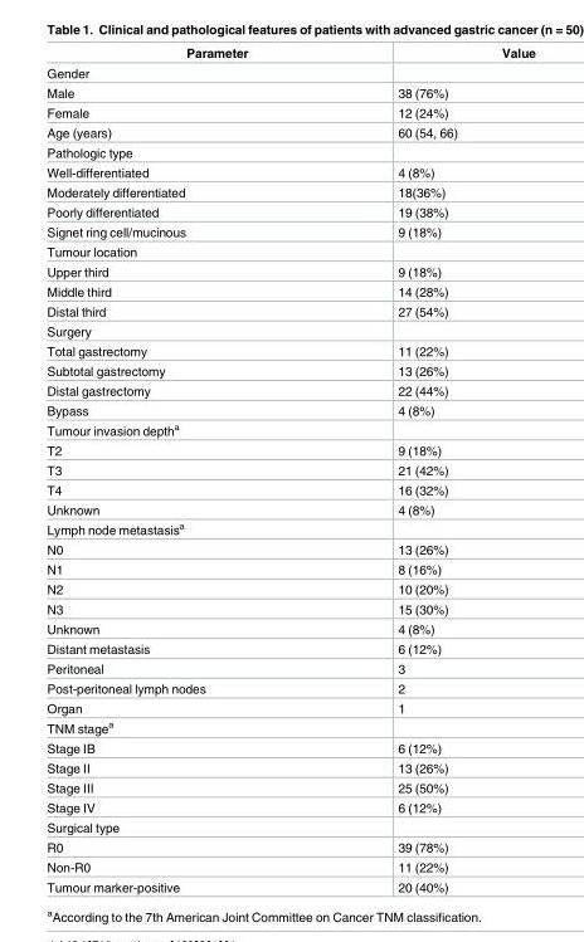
<table><thead><tr><td>Parameter</td><td>Value</td></tr></thead><tbody><tr><td colspan="2">Gender</td></tr><tr><td>Male</td><td>38 (76%)</td></tr><tr><td>Female</td><td>12 (24%)</td></tr><tr><td>Age (years)</td><td>60 (54, 66)</td></tr><tr><td colspan="2">Pathologic type</td></tr><tr><td>Well-differentiated</td><td>4 (8%)</td></tr><tr><td>Moderately differentiated</td><td>18(36%)</td></tr><tr><td>Poorly differentiated</td><td>19 (38%)</td></tr><tr><td>Signet ring cell/mucinous</td><td>9 (18%)</td></tr><tr><td colspan="2">Tumour location</td></tr><tr><td>Upper third</td><td>9 (18%)</td></tr><tr><td>Middle third</td><td>14 (28%)</td></tr><tr><td>Distal third</td><td>27 (54%)</td></tr><tr><td colspan="2">Surgery</td></tr><tr><td>Total gastrectomy</td><td>11 (22%)</td></tr><tr><td>Subtotal gastrectomy</td><td>13 (26%)</td></tr><tr><td>Distal gastrectomy</td><td>22 (44%)</td></tr><tr><td>Bypass</td><td>4 (8%)</td></tr><tr><td colspan="2">Tumour invasion depth<sup>a</sup></td></tr><tr><td>T2</td><td>9 (18%)</td></tr><tr><td>T3</td><td>21 (42%)</td></tr><tr><td>T4</td><td>16 (32%)</td></tr><tr><td>Unknown</td><td>4 (8%)</td></tr><tr><td colspan="2">Lymph node metastasis<sup>a</sup></td></tr><tr><td>N0</td><td>13 (26%)</td></tr><tr><td>N1</td><td>8 (16%)</td></tr><tr><td>N2</td><td>10 (20%)</td></tr><tr><td>N3</td><td>15 (30%)</td></tr><tr><td>Unknown</td><td>4 (8%)</td></tr><tr><td>Distant metastasis</td><td>6 (12%)</td></tr><tr><td>Peritoneal</td><td>3</td></tr><tr><td>Post-peritoneal lymph nodes</td><td>2</td></tr><tr><td>Organ</td><td>1</td></tr><tr><td colspan="2">TNM stage<sup>a</sup></td></tr><tr><td>Stage IB</td><td>6 (12%)</td></tr><tr><td>Stage II</td><td>13 (26%)</td></tr><tr><td>Stage III</td><td>25 (50%)</td></tr><tr><td>Stage IV</td><td>6 (12%)</td></tr><tr><td colspan="2">Surgical type</td></tr><tr><td>R0</td><td>39 (78%)</td></tr><tr><td>Non-R0</td><td>11 (22%)</td></tr><tr><td>Tumour marker-positive</td><td>20 (40%)</td></tr></tbody></table>